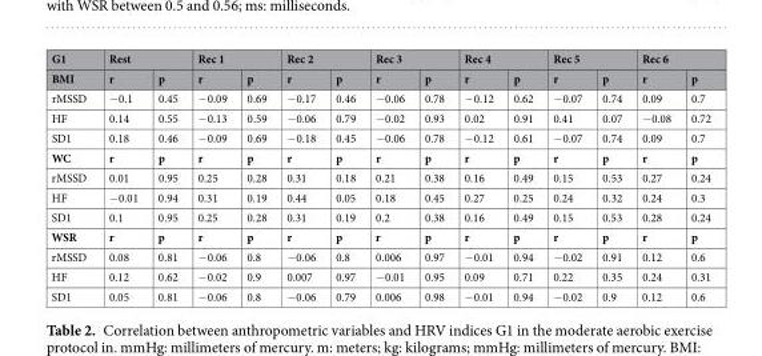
<table><thead><tr><td rowspan="2">G1 BMI</td><td colspan="2">Rest</td><td colspan="2">Rec 1</td><td colspan="2">Rec 2</td><td colspan="2">Rec 3</td><td colspan="2">Rec 4</td><td colspan="2">Rec 5</td><td colspan="2">Rec 6</td></tr><tr><td>r</td><td>p</td><td>r</td><td>p</td><td>r</td><td>p</td><td>r</td><td>p</td><td>r</td><td>p</td><td>r</td><td>p</td><td>r</td><td>p</td></tr></thead><tbody><tr><td>rMSSD</td><td>−0.1</td><td>0.45</td><td>−0.09</td><td>0.69</td><td>−0.17</td><td>0.46</td><td>−0.06</td><td>0.78</td><td>−0.12</td><td>0.62</td><td>−0.07</td><td>0.74</td><td>0.09</td><td>0.7</td></tr><tr><td>HF</td><td>0.14</td><td>0.55</td><td>−0.13</td><td>0.59</td><td>−0.06</td><td>0.79</td><td>−0.02</td><td>0.93</td><td>0.02</td><td>0.91</td><td>0.41</td><td>0.07</td><td>−0.08</td><td>0.72</td></tr><tr><td>SD1</td><td>0.18</td><td>0.46</td><td>−0.09</td><td>0.69</td><td>−0.18</td><td>0.45</td><td>−0.06</td><td>0.78</td><td>−0.12</td><td>0.61</td><td>−0.07</td><td>0.74</td><td>0.09</td><td>0.7</td></tr><tr><td>WC</td><td>r</td><td>p</td><td>r</td><td>p</td><td>r</td><td>p</td><td>r</td><td>p</td><td>r</td><td>p</td><td>r</td><td>p</td><td>r</td><td>p</td></tr><tr><td>rMSSD</td><td>0.01</td><td>0.95</td><td>0.25</td><td>0.28</td><td>0.31</td><td>0.18</td><td>0.21</td><td>0.38</td><td>0.16</td><td>0.49</td><td>0.15</td><td>0.53</td><td>0.27</td><td>0.24</td></tr><tr><td>HF</td><td>−0.01</td><td>0.94</td><td>0.31</td><td>0.19</td><td>0.44</td><td>0.05</td><td>0.18</td><td>0.45</td><td>0.27</td><td>0.25</td><td>0.24</td><td>0.32</td><td>0.24</td><td>0.3</td></tr><tr><td>SD1</td><td>0.1</td><td>0.95</td><td>0.25</td><td>0.28</td><td>0.31</td><td>0.19</td><td>0.2</td><td>0.38</td><td>0.16</td><td>0.49</td><td>0.15</td><td>0.53</td><td>0.28</td><td>0.24</td></tr><tr><td>WSR</td><td>r</td><td>p</td><td>r</td><td>p</td><td>r</td><td>p</td><td>r</td><td>p</td><td>r</td><td>p</td><td>r</td><td>p</td><td>r</td><td>p</td></tr><tr><td>rMSSD</td><td>0.08</td><td>0.81</td><td>−0.06</td><td>0.8</td><td>−0.06</td><td>0.8</td><td>0.006</td><td>0.97</td><td>−0.01</td><td>0.94</td><td>−0.02</td><td>0.91</td><td>0.12</td><td>0.6</td></tr><tr><td>HF</td><td>0.12</td><td>0.62</td><td>−0.02</td><td>0.9</td><td>0.007</td><td>0.97</td><td>−0.01</td><td>0.95</td><td>0.09</td><td>0.71</td><td>0.22</td><td>0.35</td><td>0.24</td><td>0.31</td></tr><tr><td>SD1</td><td>0.05</td><td>0.81</td><td>−0.06</td><td>0.8</td><td>−0.06</td><td>0.79</td><td>0.006</td><td>0.98</td><td>−0.01</td><td>0.94</td><td>−0.02</td><td>0.9</td><td>0.12</td><td>0.6</td></tr></tbody></table>